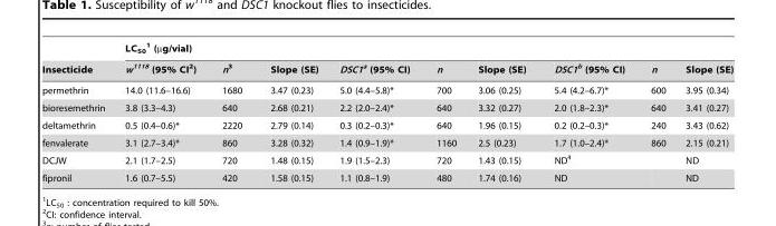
<table><thead><tr><td rowspan="2">Insecticide</td><td colspan="9">LC<sub>50</sub> 1 (µg/vial)</td></tr><tr><td>w<sup>1118</sup> (95% CI<sup>2</sup>)</td><td>n3</td><td>Slope (SE)</td><td>DSC1<sup>a</sup> (95% CI)</td><td>n</td><td>Slope (SE)</td><td>DSC1<sup>b</sup> (95% CI)</td><td>n</td><td>Slope (SE)</td></tr></thead><tbody><tr><td>permethrin</td><td>14.0 (11.6–16.6)</td><td>1680</td><td>3.47 (0.23)</td><td>5.0 (4.4–5.8)*</td><td>700</td><td>3.06 (0.25)</td><td>5.4 (4.2–6.7)*</td><td>600</td><td>3.95 (0.34)</td></tr><tr><td>bioresemethrin</td><td>3.8 (3.3–4.3)</td><td>640</td><td>2.68 (0.21)</td><td>2.2 (2.0–2.4)*</td><td>640</td><td>3.32 (0.27)</td><td>2.0 (1.8–2.3)*</td><td>640</td><td>3.41 (0.27)</td></tr><tr><td>deltamethrin</td><td>0.5 (0.4–0.6)*</td><td>2220</td><td>2.79 (0.14)</td><td>0.3 (0.2–0.3)*</td><td>640</td><td>1.96 (0.15)</td><td>0.2 (0.2–0.3)*</td><td>240</td><td>3.43 (0.62)</td></tr><tr><td>fenvalerate</td><td>3.1 (2.7–3.4)*</td><td>860</td><td>3.28 (0.32)</td><td>1.4 (0.9–1.9)*</td><td>1160</td><td>2.5 (0.23)</td><td>1.7 (1.0–2.4)*</td><td>860</td><td>2.15 (0.21)</td></tr><tr><td>DCJW</td><td>2.1 (1.7–2.5)</td><td>720</td><td>1.48 (0.15)</td><td>1.9 (1.5–2.3)</td><td>720</td><td>1.43 (0.15)</td><td>ND<sup>4</sup></td><td></td><td>ND</td></tr><tr><td>fipronil</td><td>1.6 (0.7–5.5)</td><td>420</td><td>1.58 (0.15)</td><td>1.1 (0.8–1.9)</td><td>480</td><td>1.74 (0.16)</td><td>ND</td><td></td><td>ND</td></tr></tbody></table>